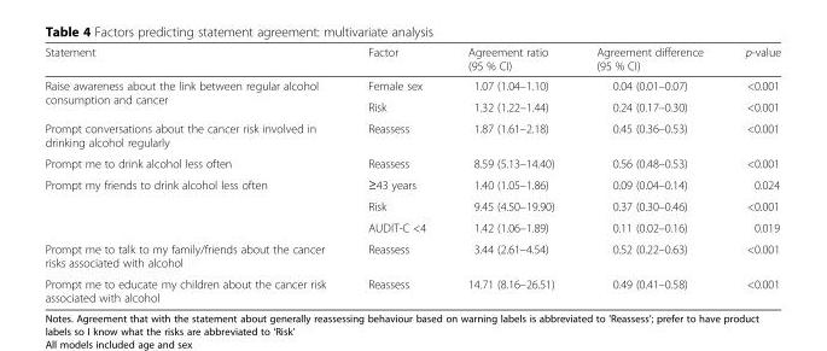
<table><thead><tr><td>Statement</td><td>Factor</td><td>Agreement ratio (95 % CI)</td><td>Agreement difference (95 % CI)</td><td>p-value</td></tr></thead><tbody><tr><td rowspan="2">Raise awareness about the link between regular alcohol consumption and cancer</td><td>Female sex</td><td>1.07 (1.04–1.10)</td><td>0.04 (0.01–0.07)</td><td>&lt;0.001</td></tr><tr><td>Risk</td><td>1.32 (1.22–1.44)</td><td>0.24 (0.17–0.30)</td><td>&lt;0.001</td></tr><tr><td>Prompt conversations about the cancer risk involved in drinking alcohol regularly</td><td>Reassess</td><td>1.87 (1.61–2.18)</td><td>0.45 (0.36–0.53)</td><td>&lt;0.001</td></tr><tr><td>Prompt me to drink alcohol less often</td><td>Reassess</td><td>8.59 (5.13–14.40)</td><td>0.56 (0.48–0.53)</td><td>&lt;0.001</td></tr><tr><td rowspan="3">Prompt my friends to drink alcohol less often</td><td>≥43 years</td><td>1.40 (1.05–1.86)</td><td>0.09 (0.04–0.14)</td><td>0.024</td></tr><tr><td>Risk</td><td>9.45 (4.50–19.90)</td><td>0.37 (0.30–0.46)</td><td>&lt;0.001</td></tr><tr><td>AUDIT-C &lt;4</td><td>1.42 (1.06–1.89)</td><td>0.11 (0.02–0.16)</td><td>0.019</td></tr><tr><td>Prompt me to talk to my family/friends about the cancer risks associated with alcohol</td><td>Reassess</td><td>3.44 (2.61–4.54)</td><td>0.52 (0.22–0.63)</td><td>&lt;0.001</td></tr><tr><td>Prompt me to educate my children about the cancer risk associated with alcohol</td><td>Reassess</td><td>14.71 (8.16–26.51)</td><td>0.49 (0.41–0.58)</td><td>&lt;0.001</td></tr></tbody></table>